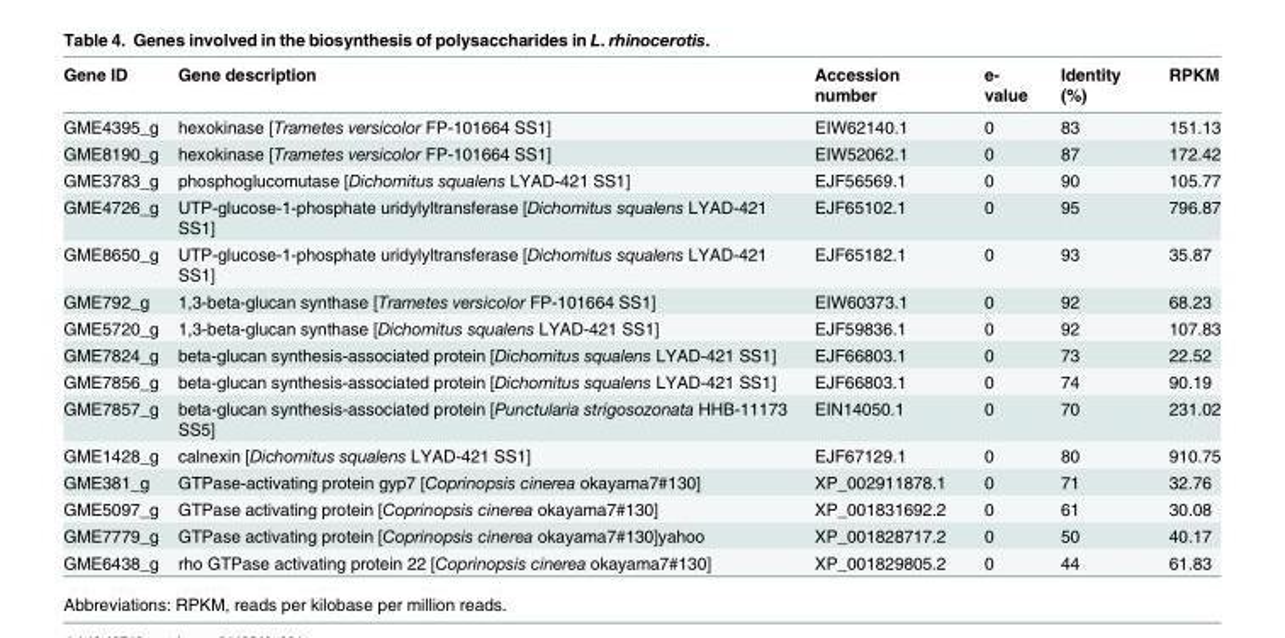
<table><thead><tr><td>Gene ID</td><td>Gene description</td><td>Accession number</td><td>e- value</td><td>Identity (%)</td><td>RPKM</td></tr></thead><tbody><tr><td>GME4395_g</td><td>hexokinase [Trametes versicolor FP-101664 SS1]</td><td>EIW62140.1</td><td>0</td><td>83</td><td>151.13</td></tr><tr><td>GME8190_g</td><td>hexokinase [Trametes versicolor FP-101664 SS1]</td><td>EIW52062.1</td><td>0</td><td>87</td><td>172.42</td></tr><tr><td>GME3783_g</td><td>phosphoglucomutase [Dichomitus squalens LYAD-421 SS1]</td><td>EJF56569.1</td><td>0</td><td>90</td><td>105.77</td></tr><tr><td>GME4726_g</td><td>UTP-glucose-1-phosphate uridylyltransferase [Dichomitus squalens LYAD-421 SS1]</td><td>EJF65102.1</td><td>0</td><td>95</td><td>796.87</td></tr><tr><td>GME8650_g</td><td>UTP-glucose-1-phosphate uridylyltransferase [Dichomitus squalens LYAD-421 SS1]</td><td>EJF65182.1</td><td>0</td><td>93</td><td>35.87</td></tr><tr><td>GME792_g</td><td>1,3-beta-glucan synthase [Trametes versicolor FP-101664 SS1]</td><td>EIW60373.1</td><td>0</td><td>92</td><td>68.23</td></tr><tr><td>GME5720_g</td><td>1,3-beta-glucan synthase [Dichomitus squalens LYAD-421 SS1]</td><td>EJF59836.1</td><td>0</td><td>92</td><td>107.83</td></tr><tr><td>GME7824_g</td><td>beta-glucan synthesis-associated protein [Dichomitus squalens LYAD-421 SS1]</td><td>EJF66803.1</td><td>0</td><td>73</td><td>22.52</td></tr><tr><td>GME7856_g</td><td>beta-glucan synthesis-associated protein [Dichomitus squalens LYAD-421 SS1]</td><td>EJF66803.1</td><td>0</td><td>74</td><td>90.19</td></tr><tr><td>GME7857_g</td><td>beta-glucan synthesis-associated protein [Punctularia strigosozonata HHB-11173 SS5]</td><td>EIN14050.1</td><td>0</td><td>70</td><td>231.02</td></tr><tr><td>GME1428_g</td><td>calnexin [Dichomitus squalens LYAD-421 SS1]</td><td>EJF67129.1</td><td>0</td><td>80</td><td>910.75</td></tr><tr><td>GME381_g</td><td>GTPase-activating protein gyp7 [Coprinopsis cinerea okayama7#130]</td><td>XP_002911878.1</td><td>0</td><td>71</td><td>32.76</td></tr><tr><td>GME5097_g</td><td>GTPase activating protein [Coprinopsis cinerea okayama7#130]</td><td>XP_001831692.2</td><td>0</td><td>61</td><td>30.08</td></tr><tr><td>GME7779_g</td><td>GTPase activating protein [Coprinopsis cinerea okayama7#130]yahoo</td><td>XP_001828717.2</td><td>0</td><td>50</td><td>40.17</td></tr><tr><td>GME6438_g</td><td>rho GTPase activating protein 22 [Coprinopsis cinerea okayama7#130]</td><td>XP_001829805.2</td><td>0</td><td>44</td><td>61.83</td></tr></tbody></table>